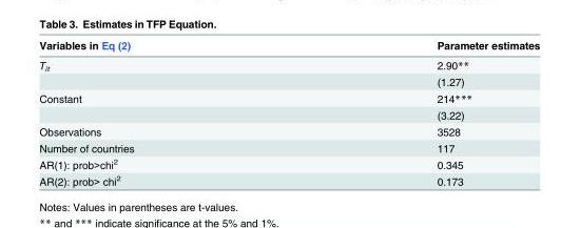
<table><thead><tr><td>Variables in Eq (2)</td><td>Parameter estimates</td></tr></thead><tbody><tr><td rowspan="2">T<sub>it</sub></td><td>2.90**</td></tr><tr><td>(1.27)</td></tr><tr><td rowspan="2">Constant</td><td>214***</td></tr><tr><td>(3.22)</td></tr><tr><td>Observations</td><td>3528</td></tr><tr><td>Number of countries</td><td>117</td></tr><tr><td>AR(1): prob&gt;chi<sup>2</sup></td><td>0.345</td></tr><tr><td>AR(2): prob&gt; chi<sup>2</sup></td><td>0.173</td></tr></tbody></table>